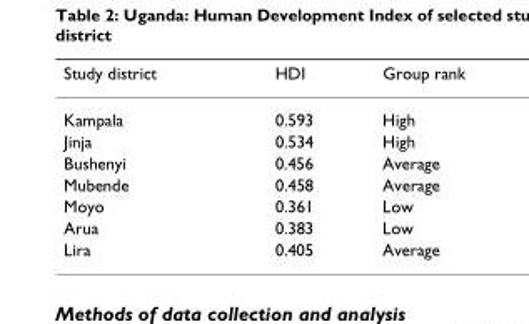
<table><thead><tr><td>Study district</td><td>HDI</td><td>Group rank</td></tr></thead><tbody><tr><td>Kampala</td><td>0.593</td><td>High</td></tr><tr><td>Jinja</td><td>0.534</td><td>High</td></tr><tr><td>Bushenyi</td><td>0.456</td><td>Average</td></tr><tr><td>Mubende</td><td>0.458</td><td>Average</td></tr><tr><td>Moyo</td><td>0.361</td><td>Low</td></tr><tr><td>Arua</td><td>0.383</td><td>Low</td></tr><tr><td>Lira</td><td>0.405</td><td>Average</td></tr></tbody></table>